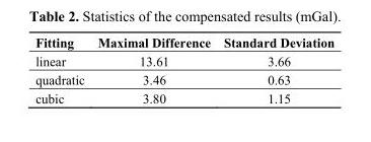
<table><thead><tr><td>Fitting</td><td>Maximal Difference</td><td>Standard Deviation</td></tr></thead><tbody><tr><td>linear</td><td>13.61</td><td>3.66</td></tr><tr><td>quadratic</td><td>3.46</td><td>0.63</td></tr><tr><td>cubic</td><td>3.80</td><td>1.15</td></tr></tbody></table>